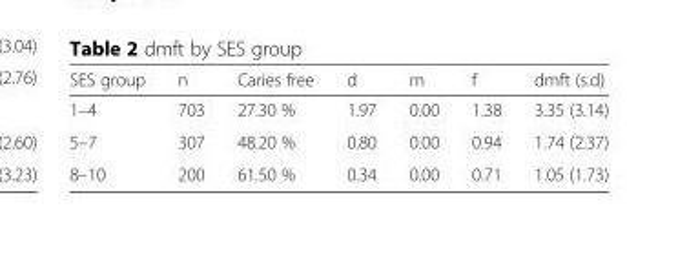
<table><thead><tr><td>SES group</td><td>n</td><td>Caries free</td><td>d</td><td>m</td><td>f</td><td>dmft (s.d)</td></tr></thead><tbody><tr><td>1–4</td><td>703</td><td>27.30 %</td><td>1.97</td><td>0.00</td><td>1.38</td><td>3.35 (3.14)</td></tr><tr><td>5–7</td><td>307</td><td>48.20 %</td><td>0.80</td><td>0.00</td><td>0.94</td><td>1.74 (2.37)</td></tr><tr><td>8–10</td><td>200</td><td>61.50 %</td><td>0.34</td><td>0.00</td><td>0.71</td><td>1.05 (1.73)</td></tr></tbody></table>